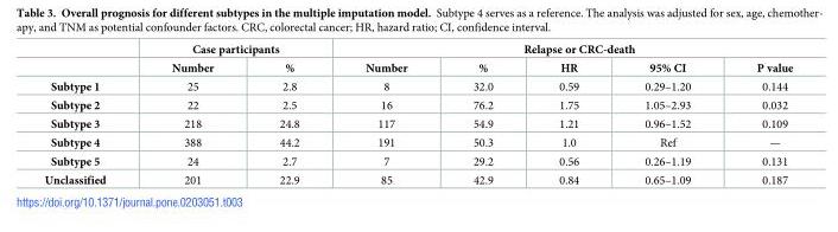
<table><thead><tr><td rowspan="2"></td><td colspan="2">Case participants</td><td colspan="5">Relapse or CRC-death</td></tr><tr><td>Number</td><td>%</td><td>Number</td><td>%</td><td>HR</td><td>95% CI</td><td>P value</td></tr></thead><tbody><tr><td>Subtype 1</td><td>25</td><td>2.8</td><td>8</td><td>32.0</td><td>0.59</td><td>0.29–1.20</td><td>0.144</td></tr><tr><td>Subtype 2</td><td>22</td><td>2.5</td><td>16</td><td>76.2</td><td>1.75</td><td>1.05–2.93</td><td>0.032</td></tr><tr><td>Subtype 3</td><td>218</td><td>24.8</td><td>117</td><td>54.9</td><td>1.21</td><td>0.96–1.52</td><td>0.109</td></tr><tr><td>Subtype 4</td><td>388</td><td>44.2</td><td>191</td><td>50.3</td><td>1.0</td><td>Ref</td><td>—</td></tr><tr><td>Subtype 5</td><td>24</td><td>2.7</td><td>7</td><td>29.2</td><td>0.56</td><td>0.26–1.19</td><td>0.131</td></tr><tr><td>Unclassified</td><td>201</td><td>22.9</td><td>85</td><td>42.9</td><td>0.84</td><td>0.65–1.09</td><td>0.187</td></tr></tbody></table>